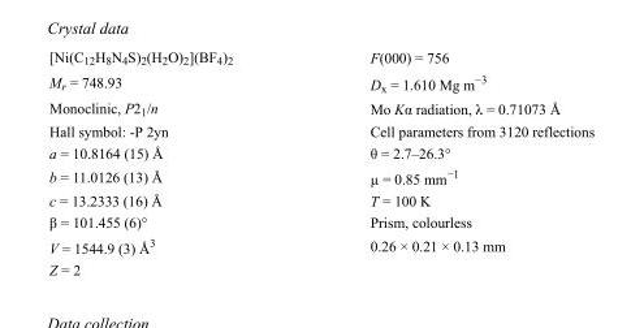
<table><tbody><tr><td>[Ni(C<sub>12</sub>H<sub>8</sub>N<sub>4</sub>S)<sub>2</sub>(H<sub>2</sub>O)<sub>2</sub>](BF<sub>4</sub>)<sub>2</sub></td><td>F(000) = 756</td></tr><tr><td>M<sub>r</sub> = 748.93</td><td>D<sub>x</sub> = 1.610 Mg m<sup>−3</sup></td></tr><tr><td>Monoclinic, P2<sub>1</sub>/n</td><td>Mo Kα radiation, λ = 0.71073 Å</td></tr><tr><td>Hall symbol: -P 2yn</td><td>Cell parameters from 3120 reflections</td></tr><tr><td>a = 10.8164 (15) Å</td><td>θ = 2.7–26.3°</td></tr><tr><td>b = 11.0126 (13) Å</td><td>µ = 0.85 mm<sup>−1</sup></td></tr><tr><td>c = 13.2333 (16) Å</td><td>T = 100 K</td></tr><tr><td>β = 101.455 (6)°</td><td>Prism, colourless</td></tr><tr><td>V = 1544.9 (3) Å<sup>3</sup></td><td>0.26 × 0.21 × 0.13 mm</td></tr><tr><td>Z = 2</td><td></td></tr></tbody></table>